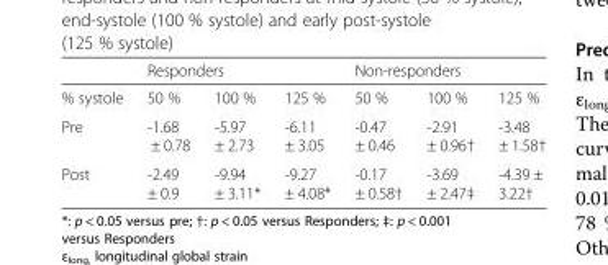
<table><thead><tr><td rowspan="2">% systole</td><td colspan="3">Responders</td><td colspan="3">Non-responders</td></tr><tr><td>50 %</td><td>100 %</td><td>125 %</td><td>50 %</td><td>100 %</td><td>125 %</td></tr></thead><tbody><tr><td>Pre</td><td>-1.68 ± 0.78</td><td>-5.97 ± 2.73</td><td>-6.11 ± 3.05</td><td>-0.47 ± 0.46</td><td>-2.91 ± 0.96†</td><td>-3.48 ± 1.58†</td></tr><tr><td>Post</td><td>-2.49 ± 0.9</td><td>-9.94 ± 3.11*</td><td>-9.27 ± 4.08*</td><td>-0.17 ± 0.58†</td><td>-3.69 ± 2.47‡</td><td>-4.39 ± 3.22†</td></tr></tbody></table>